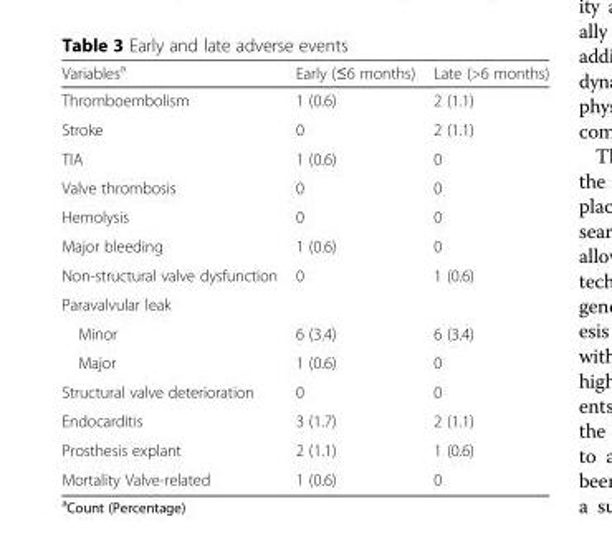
<table><thead><tr><td>Variables<sup>a</sup></td><td>Early (≤6 months)</td><td>Late (&gt;6 months)</td></tr></thead><tbody><tr><td>Thromboembolism</td><td>1 (0.6)</td><td>2 (1.1)</td></tr><tr><td>Stroke</td><td>0</td><td>2 (1.1)</td></tr><tr><td>TIA</td><td>1 (0.6)</td><td>0</td></tr><tr><td>Valve thrombosis</td><td>0</td><td>0</td></tr><tr><td>Hemolysis</td><td>0</td><td>0</td></tr><tr><td>Major bleeding</td><td>1 (0.6)</td><td>0</td></tr><tr><td>Non-structural valve dysfunction</td><td>0</td><td>1 (0.6)</td></tr><tr><td colspan="3">Paravalvular leak</td></tr><tr><td>Minor</td><td>6 (3.4)</td><td>6 (3.4)</td></tr><tr><td>Major</td><td>1 (0.6)</td><td>0</td></tr><tr><td>Structural valve deterioration</td><td>0</td><td>0</td></tr><tr><td>Endocarditis</td><td>3 (1.7)</td><td>2 (1.1)</td></tr><tr><td>Prosthesis explant</td><td>2 (1.1)</td><td>1 (0.6)</td></tr><tr><td>Mortality Valve-related</td><td>1 (0.6)</td><td>0</td></tr></tbody></table>